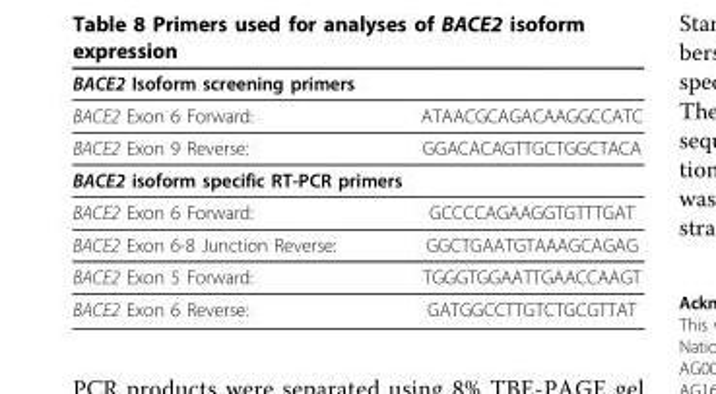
<table><thead><tr><td>BACE2 Isoform screening primers</td><td></td></tr></thead><tbody><tr><td>BACE2 Exon 6 Forward:</td><td>ATAACGCAGACAAGGCCATC</td></tr><tr><td>BACE2 Exon 9 Reverse:</td><td>GGACACAGTTGCTGGCTACA</td></tr><tr><td colspan="2">BACE2 isoform specific RT-PCR primers</td></tr><tr><td>BACE2 Exon 6 Forward:</td><td>GCCCCAGAAGGTGTTTGAT</td></tr><tr><td>BACE2 Exon 6-8 Junction Reverse:</td><td>GGCTGAATGTAAAGCAGAG</td></tr><tr><td>BACE2 Exon 5 Forward:</td><td>TGGGTGGAATTGAACCAAGT</td></tr><tr><td>BACE2 Exon 6 Reverse:</td><td>GATGGCCTTGTCTGCGTTAT</td></tr></tbody></table>